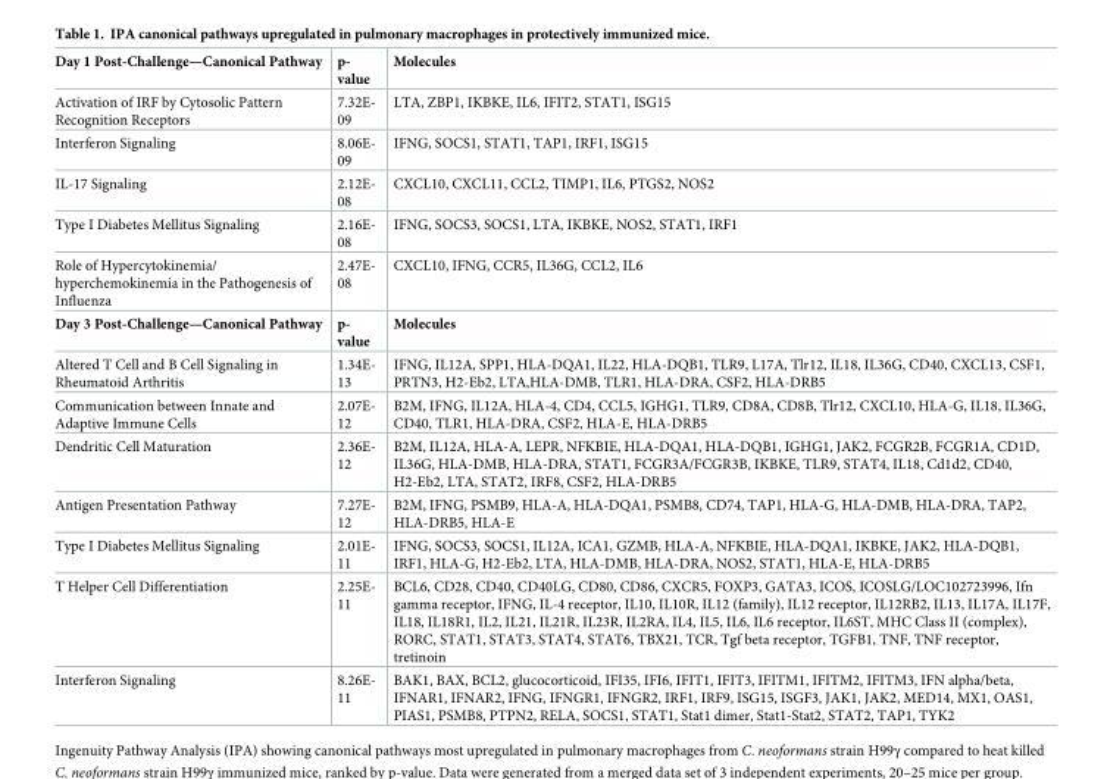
<table><tbody><tr><td>Day 1 Post-Challenge—Canonical Pathway</td><td>p- value</td><td>Molecules</td></tr><tr><td>Activation of IRF by Cytosolic Pattern Recognition Receptors</td><td>7.32E- 09</td><td>LTA, ZBP1, IKBKE, IL6, IFIT2, STAT1, ISG15</td></tr><tr><td>Interferon Signaling</td><td>8.06E- 09</td><td>IFNG, SOCS1, STAT1, TAP1, IRF1, ISG15</td></tr><tr><td>IL-17 Signaling</td><td>2.12E- 08</td><td>CXCL10, CXCL11, CCL2, TIMP1, IL6, PTGS2, NOS2</td></tr><tr><td>Type I Diabetes Mellitus Signaling</td><td>2.16E- 08</td><td>IFNG, SOCS3, SOCS1, LTA, IKBKE, NOS2, STAT1, IRF1</td></tr><tr><td>Role of Hypercytokinemia/ hyperchemokinemia in the Pathogenesis of Influenza</td><td>2.47E- 08</td><td>CXCL10, IFNG, CCR5, IL36G, CCL2, IL6</td></tr><tr><td>Day 3 Post-Challenge—Canonical Pathway</td><td>p- value</td><td>Molecules</td></tr><tr><td>Altered T Cell and B Cell Signaling in Rheumatoid Arthritis</td><td>1.34E- 13</td><td>IFNG, IL12A, SPP1, HLA-DQA1, IL22, HLA-DQB1, TLR9, L17A, Tlr12, IL18, IL36G, CD40, CXCL13, CSF1, PRTN3, H2-Eb2, LTA,HLA-DMB, TLR1, HLA-DRA, CSF2, HLA-DRB5</td></tr><tr><td>Communication between Innate and Adaptive Immune Cells</td><td>2.07E- 12</td><td>B2M, IFNG, IL12A, HLA-4, CD4, CCL5, IGHG1, TLR9, CD8A, CD8B, Tlr12, CXCL10, HLA-G, IL18, IL36G, CD40, TLR1, HLA-DRA, CSF2, HLA-E, HLA-DRB5</td></tr><tr><td>Dendritic Cell Maturation</td><td>2.36E- 12</td><td>B2M, IL12A, HLA-A, LEPR, NFKBIE, HLA-DQA1, HLA-DQB1, IGHG1, JAK2, FCGR2B, FCGR1A, CD1D, IL36G, HLA-DMB, HLA-DRA, STAT1, FCGR3A/FCGR3B, IKBKE, TLR9, STAT4, IL18, Cd1d2, CD40, H2-Eb2, LTA, STAT2, IRF8, CSF2, HLA-DRB5</td></tr><tr><td>Antigen Presentation Pathway</td><td>7.27E- 12</td><td>B2M, IFNG, PSMB9, HLA-A, HLA-DQA1, PSMB8, CD74, TAP1, HLA-G, HLA-DMB, HLA-DRA, TAP2, HLA-DRB5, HLA-E</td></tr><tr><td>Type I Diabetes Mellitus Signaling</td><td>2.01E- 11</td><td>IFNG, SOCS3, SOCS1, IL12A, ICA1, GZMB, HLA-A, NFKBIE, HLA-DQA1, IKBKE, JAK2, HLA-DQB1, IRF1, HLA-G, H2-Eb2, LTA, HLA-DMB, HLA-DRA, NOS2, STAT1, HLA-E, HLA-DRB5</td></tr><tr><td>T Helper Cell Differentiation</td><td>2.25E- 11</td><td>BCL6, CD28, CD40, CD40LG, CD80, CD86, CXCR5, FOXP3, GATA3, ICOS, ICOSLG/LOC102723996, Ifn gamma receptor, IFNG, IL-4 receptor, IL10, IL10R, IL12 (family), IL12 receptor, IL12RB2, IL13, IL17A, IL17F, IL18, IL18R1, IL2, IL21, IL21R, IL23R, IL2RA, IL4, IL5, IL6, IL6 receptor, IL6ST, MHC Class II (complex), RORC, STAT1, STAT3, STAT4, STAT6, TBX21, TCR, Tgf beta receptor, TGFB1, TNF, TNF receptor, tretinoin</td></tr><tr><td>Interferon Signaling</td><td>8.26E- 11</td><td>BAK1, BAX, BCL2, glucocorticoid, IFI35, IFI6, IFIT1, IFIT3, IFITM1, IFITM2, IFITM3, IFN alpha/beta, IFNAR1, IFNAR2, IFNG, IFNGR1, IFNGR2, IRF1, IRF9, ISG15, ISGF3, JAK1, JAK2, MED14, MX1, OAS1, PIAS1, PSMB8, PTPN2, RELA, SOCS1, STAT1, Stat1 dimer, Stat1-Stat2, STAT2, TAP1, TYK2</td></tr></tbody></table>